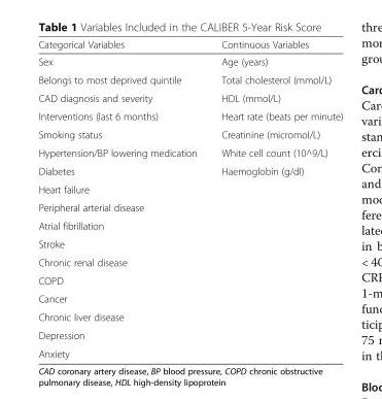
<table><thead><tr><td>Categorical Variables</td><td>Continuous Variables</td></tr></thead><tbody><tr><td>Sex</td><td>Age (years)</td></tr><tr><td>Belongs to most deprived quintile</td><td>Total cholesterol (mmol/L)</td></tr><tr><td>CAD diagnosis and severity</td><td>HDL (mmol/L)</td></tr><tr><td>Interventions (last 6 months)</td><td>Heart rate (beats per minute)</td></tr><tr><td>Smoking status</td><td>Creatinine (micromol/L)</td></tr><tr><td>Hypertension/BP lowering medication</td><td>White cell count (10^9/L)</td></tr><tr><td>Diabetes</td><td>Haemoglobin (g/dl)</td></tr><tr><td colspan="2">Heart failure</td></tr><tr><td colspan="2">Peripheral arterial disease</td></tr><tr><td colspan="2">Atrial fibrillation</td></tr><tr><td colspan="2">Stroke</td></tr><tr><td colspan="2">Chronic renal disease</td></tr><tr><td colspan="2">COPD</td></tr><tr><td colspan="2">Cancer</td></tr><tr><td colspan="2">Chronic liver disease</td></tr><tr><td colspan="2">Depression</td></tr><tr><td>Anxiety</td><td></td></tr></tbody></table>